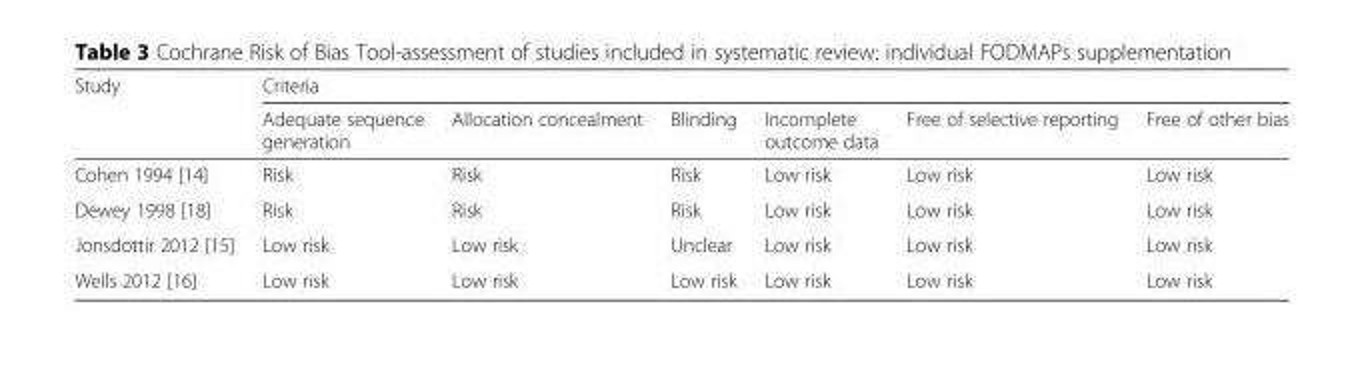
<table><thead><tr><td rowspan="2">Study</td><td colspan="6">Criteria</td></tr><tr><td>Adequate sequence generation</td><td>Allocation concealment</td><td>Blinding</td><td>Incomplete outcome data</td><td>Free of selective reporting</td><td>Free of other bias</td></tr></thead><tbody><tr><td>Cohen 1994 [14]</td><td>Risk</td><td>Risk</td><td>Risk</td><td>Low risk</td><td>Low risk</td><td>Low risk</td></tr><tr><td>Dewey 1998 [18]</td><td>Risk</td><td>Risk</td><td>Risk</td><td>Low risk</td><td>Low risk</td><td>Low risk</td></tr><tr><td>Jonsdottir 2012 [15]</td><td>Low risk</td><td>Low risk</td><td>Unclear</td><td>Low risk</td><td>Low risk</td><td>Low risk</td></tr><tr><td>Wells 2012 [16]</td><td>Low risk</td><td>Low risk</td><td>Low risk</td><td>Low risk</td><td>Low risk</td><td>Low risk</td></tr></tbody></table>